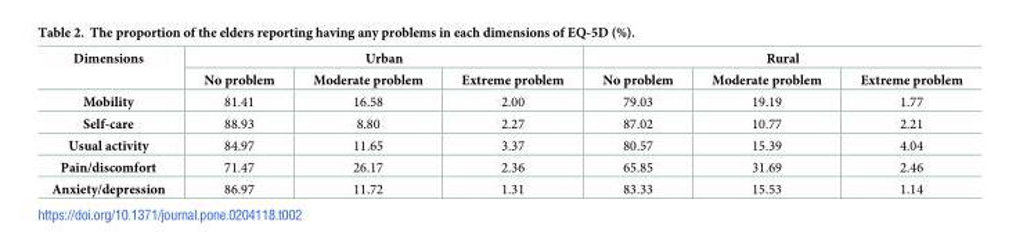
<table><thead><tr><td rowspan="2">Dimensions</td><td colspan="3">Urban</td><td colspan="3">Rural</td></tr><tr><td>No problem</td><td>Moderate problem</td><td>Extreme problem</td><td>No problem</td><td>Moderate problem</td><td>Extreme problem</td></tr></thead><tbody><tr><td>Mobility</td><td>81.41</td><td>16.58</td><td>2.00</td><td>79.03</td><td>19.19</td><td>1.77</td></tr><tr><td>Self-care</td><td>88.93</td><td>8.80</td><td>2.27</td><td>87.02</td><td>10.77</td><td>2.21</td></tr><tr><td>Usual activity</td><td>84.97</td><td>11.65</td><td>3.37</td><td>80.57</td><td>15.39</td><td>4.04</td></tr><tr><td>Pain/discomfort</td><td>71.47</td><td>26.17</td><td>2.36</td><td>65.85</td><td>31.69</td><td>2.46</td></tr><tr><td>Anxiety/depression</td><td>86.97</td><td>11.72</td><td>1.31</td><td>83.33</td><td>15.53</td><td>1.14</td></tr></tbody></table>